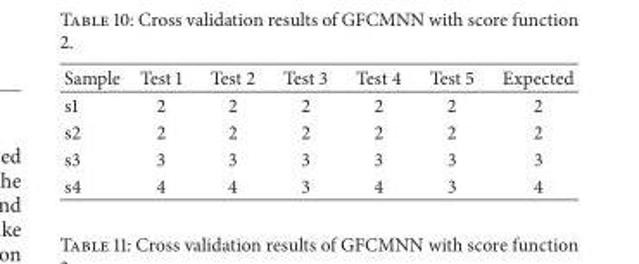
<table><thead><tr><td>Sample</td><td>Test 1</td><td>Test 2</td><td>Test 3</td><td>Test 4</td><td>Test 5</td><td>Expected</td></tr></thead><tbody><tr><td>s1</td><td>2</td><td>2</td><td>2</td><td>2</td><td>2</td><td>2</td></tr><tr><td>s2</td><td>2</td><td>2</td><td>2</td><td>2</td><td>2</td><td>2</td></tr><tr><td>s3</td><td>3</td><td>3</td><td>3</td><td>3</td><td>3</td><td>3</td></tr><tr><td>s4</td><td>4</td><td>4</td><td>3</td><td>4</td><td>3</td><td>4</td></tr></tbody></table>